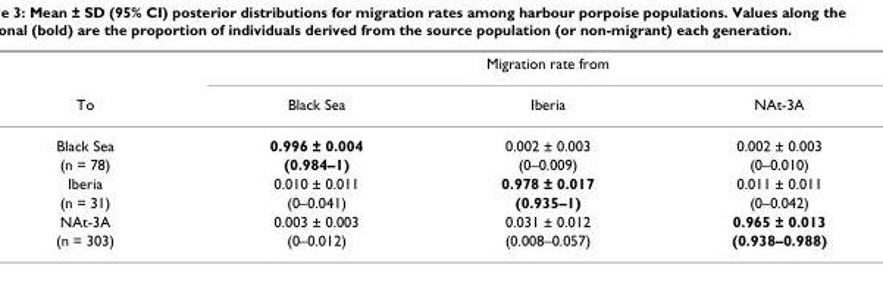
<table><thead><tr><td rowspan="2">To</td><td colspan="3">Migration rate from</td></tr><tr><td>Black Sea</td><td>Iberia</td><td>NAt-3A</td></tr></thead><tbody><tr><td>Black Sea</td><td>0.996 ± 0.004</td><td>0.002 ± 0.003</td><td>0.002 ± 0.003</td></tr><tr><td>(n = 78)</td><td>(0.984–1)</td><td>(0–0.009)</td><td>(0–0.010)</td></tr><tr><td>Iberia</td><td>0.010 ± 0.011</td><td>0.978 ± 0.017</td><td>0.011 ± 0.011</td></tr><tr><td>(n = 31)</td><td>(0–0.041)</td><td>(0.935–1)</td><td>(0–0.042)</td></tr><tr><td>NAt-3A</td><td>0.003 ± 0.003</td><td>0.031 ± 0.012</td><td>0.965 ± 0.013</td></tr><tr><td>(n = 303)</td><td>(0–0.012)</td><td>(0.008–0.057)</td><td>(0.938–0.988)</td></tr></tbody></table>